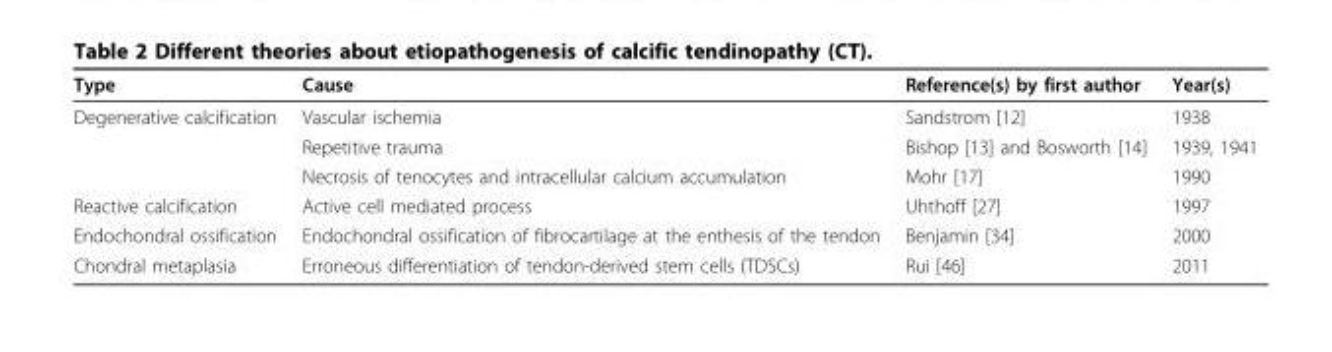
<table><thead><tr><td>Type</td><td>Cause</td><td>Reference(s) by first author</td><td>Year(s)</td></tr></thead><tbody><tr><td rowspan="3">Degenerative calcification</td><td>Vascular ischemia</td><td>Sandstrom [12]</td><td>1938</td></tr><tr><td>Repetitive trauma</td><td>Bishop [13] and Bosworth [14]</td><td>1939, 1941</td></tr><tr><td>Necrosis of tenocytes and intracellular calcium accumulation</td><td>Mohr [17]</td><td>1990</td></tr><tr><td>Reactive calcification</td><td>Active cell mediated process</td><td>Uhthoff [27]</td><td>1997</td></tr><tr><td>Endochondral ossification</td><td>Endochondral ossification of fibrocartilage at the enthesis of the tendon</td><td>Benjamin [34]</td><td>2000</td></tr><tr><td>Chondral metaplasia</td><td>Erroneous differentiation of tendon-derived stem cells (TDSCs)</td><td>Rui [46]</td><td>2011</td></tr></tbody></table>